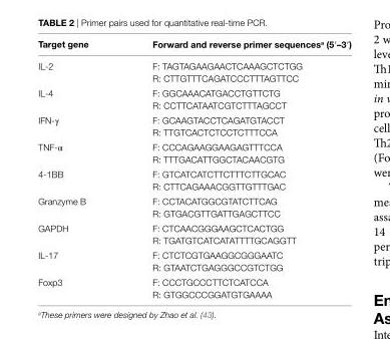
<table><thead><tr><td>Target gene</td><td>Forward and reverse primer sequences<sup>a</sup> (5′–3′)</td></tr></thead><tbody><tr><td rowspan="2">IL-2</td><td>F: TAGTAGAAGAACTCAAAGCTCTGG</td></tr><tr><td>R: CTTGTTTCAGATCCCTTTAGTTCC</td></tr><tr><td rowspan="2">IL-4</td><td>F: GGCAAACATGACCTGTTCTG</td></tr><tr><td>R: CCTTCATAATCGTCTTTAGCCT</td></tr><tr><td rowspan="2">IFN-γ</td><td>F: GCAAGTACCTCAGATGTACCT</td></tr><tr><td>R: TTGTCACTCTCCTCTTTCCA</td></tr><tr><td rowspan="2">TNF-α</td><td>F: CCCAGAAGGAAGAGTTTCCA</td></tr><tr><td>R: TTTGACATTGGCTACAACGTG</td></tr><tr><td rowspan="2">4-1BB</td><td>F: GTCATCATCTTCTTTCTTGCAC</td></tr><tr><td>R: CTTCAGAAACGGTTGTTTGAC</td></tr><tr><td rowspan="2">Granzyme B</td><td>F: CCTACATGGCGTATCTTCAG</td></tr><tr><td>R: GTGACGTTGATTGAGCTTCC</td></tr><tr><td rowspan="2">GAPDH</td><td>F: CTCAACGGGAAGCTCACTGG</td></tr><tr><td>R: TGATGTCATCATATTTTGCAGGTT</td></tr><tr><td rowspan="2">IL-17</td><td>F: CTCTCGTGAAGGCGGGAATC</td></tr><tr><td>R: GTAATCTGAGGGCCGTCTGG</td></tr><tr><td rowspan="2">Foxp3</td><td>F: CCCTGCCCTTCTCATCCA</td></tr><tr><td>R: GTGGCCCGGATGTGAAAA</td></tr></tbody></table>